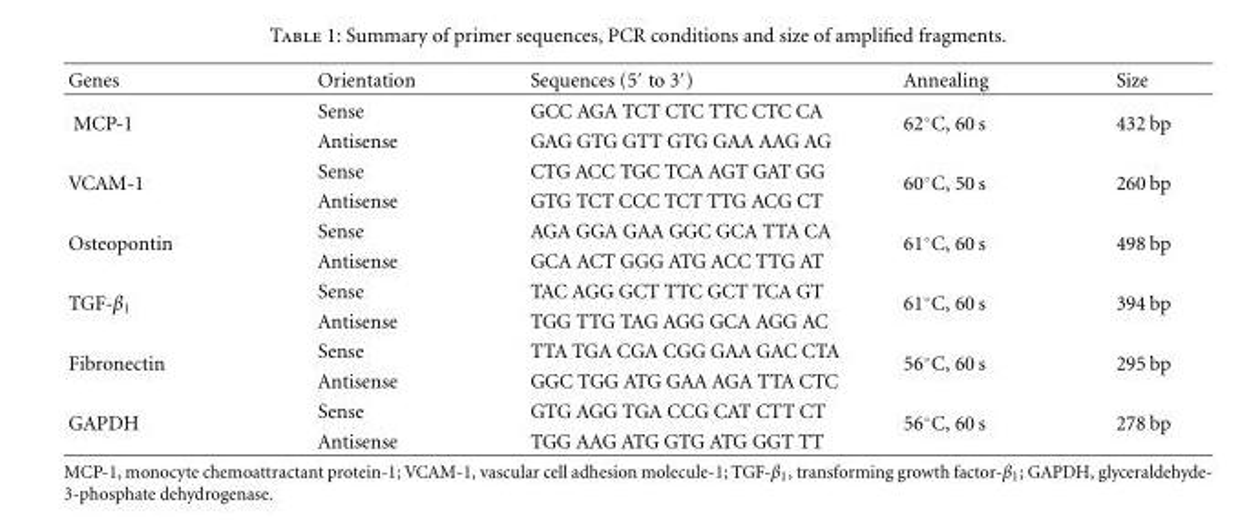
<table><thead><tr><td>Genes</td><td>Orientation</td><td>Sequences (5′ to 3′)</td><td>Annealing</td><td>Size</td></tr></thead><tbody><tr><td rowspan="2">MCP-1</td><td>Sense</td><td>GCC AGA TCT CTC TTC CTC CA</td><td rowspan="2">62◦C, 60 s</td><td rowspan="2">432 bp</td></tr><tr><td>Antisense</td><td>GAG GTG GTT GTG GAA AAG AG</td></tr><tr><td rowspan="2">VCAM-1</td><td>Sense</td><td>CTG ACC TGC TCA AGT GAT GG</td><td rowspan="2">60◦C, 50 s</td><td rowspan="2">260 bp</td></tr><tr><td>Antisense</td><td>GTG TCT CCC TCT TTG ACG CT</td></tr><tr><td rowspan="2">Osteopontin</td><td>Sense</td><td>AGA GGA GAA GGC GCA TTA CA</td><td rowspan="2">61◦C, 60 s</td><td rowspan="2">498 bp</td></tr><tr><td>Antisense</td><td>GCA ACT GGG ATG ACC TTG AT</td></tr><tr><td rowspan="2">TGF-β<sub>1</sub></td><td>Sense</td><td>TAC AGG GCT TTC GCT TCA GT</td><td rowspan="2">61◦C, 60 s</td><td rowspan="2">394 bp</td></tr><tr><td>Antisense</td><td>TGG TTG TAG AGG GCA AGG AC</td></tr><tr><td rowspan="2">Fibronectin</td><td>Sense</td><td>TTA TGA CGA CGG GAA GAC CTA</td><td rowspan="2">56◦C, 60 s</td><td rowspan="2">295 bp</td></tr><tr><td>Antisense</td><td>GGC TGG ATG GAA AGA TTA CTC</td></tr><tr><td rowspan="2">GAPDH</td><td>Sense</td><td>GTG AGG TGA CCG CAT CTT CT</td><td rowspan="2">56◦C, 60 s</td><td rowspan="2">278 bp</td></tr><tr><td>Antisense</td><td>TGG AAG ATG GTG ATG GGT TT</td></tr></tbody></table>